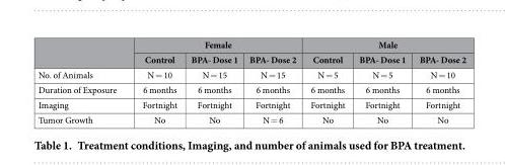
<table><thead><tr><td rowspan="2"></td><td colspan="3">Female</td><td colspan="3">Male</td></tr><tr><td>Control</td><td>BPA- Dose 1</td><td>BPA- Dose 2</td><td>Control</td><td>BPA- Dose 1</td><td>BPA- Dose 2</td></tr></thead><tbody><tr><td>No. of Animals</td><td>N = 10</td><td>N = 15</td><td>N = 15</td><td>N = 5</td><td>N = 5</td><td>N = 10</td></tr><tr><td>Duration of Exposure</td><td>6 months</td><td>6 months</td><td>6 months</td><td>6 months</td><td>6 months</td><td>6 months</td></tr><tr><td>Imaging</td><td>Fortnight</td><td>Fortnight</td><td>Fortnight</td><td>Fortnight</td><td>Fortnight</td><td>Fortnight</td></tr><tr><td>Tumor Growth</td><td>No</td><td>No</td><td>N = 6</td><td>No</td><td>No</td><td>No</td></tr></tbody></table>